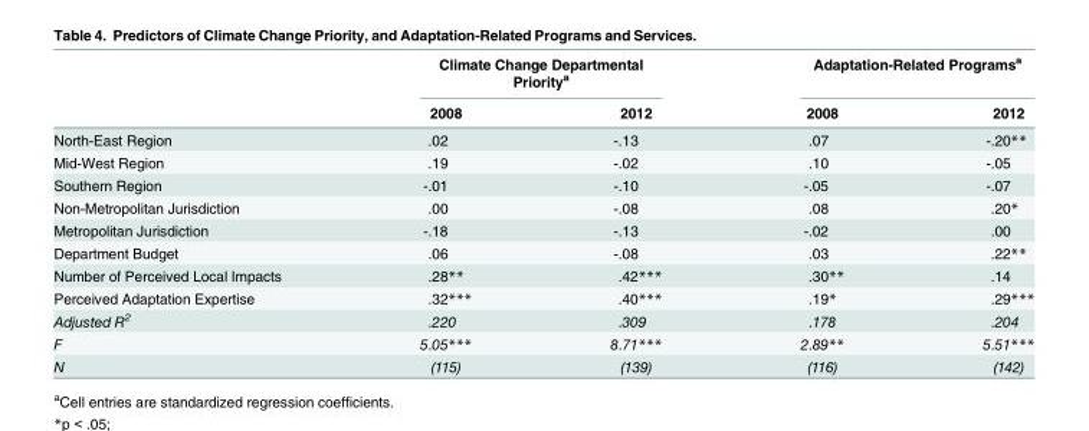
<table><thead><tr><td rowspan="2"></td><td colspan="2">Climate Change Departmental Priority<sup>a</sup></td><td colspan="2">Adaptation-Related Programs<sup>a</sup></td></tr><tr><td>2008</td><td>2012</td><td>2008</td><td>2012</td></tr></thead><tbody><tr><td>North-East Region</td><td>.02</td><td>-.13</td><td>.07</td><td>-.20**</td></tr><tr><td>Mid-West Region</td><td>.19</td><td>-.02</td><td>.10</td><td>-.05</td></tr><tr><td>Southern Region</td><td>-.01</td><td>-.10</td><td>-.05</td><td>-.07</td></tr><tr><td>Non-Metropolitan Jurisdiction</td><td>.00</td><td>-.08</td><td>.08</td><td>.20*</td></tr><tr><td>Metropolitan Jurisdiction</td><td>-.18</td><td>-.13</td><td>-.02</td><td>.00</td></tr><tr><td>Department Budget</td><td>.06</td><td>-.08</td><td>.03</td><td>.22**</td></tr><tr><td>Number of Perceived Local Impacts</td><td>.28**</td><td>.42***</td><td>.30**</td><td>.14</td></tr><tr><td>Perceived Adaptation Expertise</td><td>.32***</td><td>.40***</td><td>.19*</td><td>.29***</td></tr><tr><td>Adjusted R<sup>2</sup></td><td>.220</td><td>.309</td><td>.178</td><td>.204</td></tr><tr><td>F</td><td>5.05***</td><td>8.71***</td><td>2.89**</td><td>5.51***</td></tr><tr><td>N</td><td>(115)</td><td>(139)</td><td>(116)</td><td>(142)</td></tr></tbody></table>